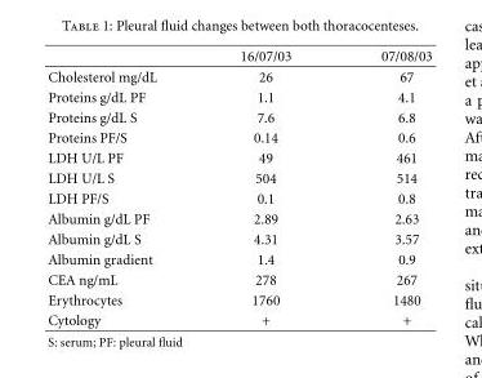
<table><thead><tr><td></td><td>16/07/03</td><td>07/08/03</td></tr></thead><tbody><tr><td>Cholesterol mg/dL</td><td>26</td><td>67</td></tr><tr><td>Proteins g/dL PF</td><td>1.1</td><td>4.1</td></tr><tr><td>Proteins g/dL S</td><td>7.6</td><td>6.8</td></tr><tr><td>Proteins PF/S</td><td>0.14</td><td>0.6</td></tr><tr><td>LDH U/L PF</td><td>49</td><td>461</td></tr><tr><td>LDH U/L S</td><td>504</td><td>514</td></tr><tr><td>LDH PF/S</td><td>0.1</td><td>0.8</td></tr><tr><td>Albumin g/dL PF</td><td>2.89</td><td>2.63</td></tr><tr><td>Albumin g/dL S</td><td>4.31</td><td>3.57</td></tr><tr><td>Albumin gradient</td><td>1.4</td><td>0.9</td></tr><tr><td>CEA ng/mL</td><td>278</td><td>267</td></tr><tr><td>Erythrocytes</td><td>1760</td><td>1480</td></tr><tr><td>Cytology</td><td>+</td><td>+</td></tr></tbody></table>